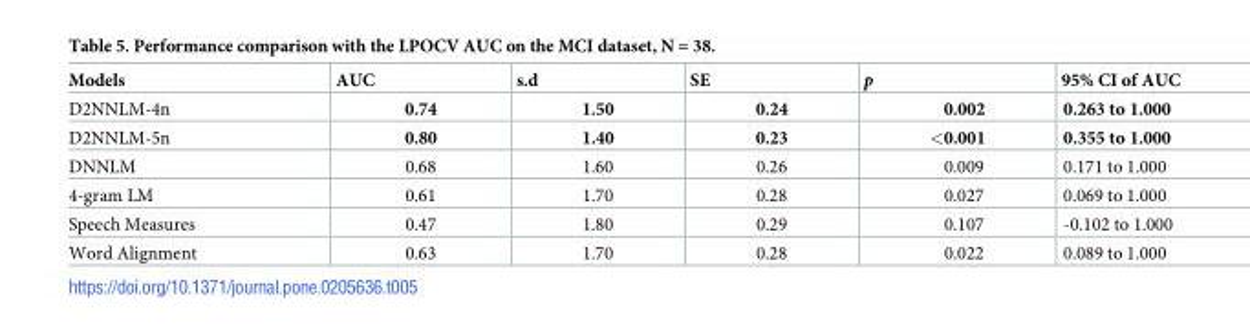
<table><thead><tr><td>Models</td><td>AUC</td><td>s.d</td><td>SE</td><td>p</td><td>95% CI of AUC</td></tr></thead><tbody><tr><td>D2NNLM-4n</td><td>0.74</td><td>1.50</td><td>0.24</td><td>0.002</td><td>0.263 to 1.000</td></tr><tr><td>D2NNLM-5n</td><td>0.80</td><td>1.40</td><td>0.23</td><td>&lt;0.001</td><td>0.355 to 1.000</td></tr><tr><td>DNNLM</td><td>0.68</td><td>1.60</td><td>0.26</td><td>0.009</td><td>0.171 to 1.000</td></tr><tr><td>4-gram LM</td><td>0.61</td><td>1.70</td><td>0.28</td><td>0.027</td><td>0.069 to 1.000</td></tr><tr><td>Speech Measures</td><td>0.47</td><td>1.80</td><td>0.29</td><td>0.107</td><td>-0.102 to 1.000</td></tr><tr><td>Word Alignment</td><td>0.63</td><td>1.70</td><td>0.28</td><td>0.022</td><td>0.089 to 1.000</td></tr></tbody></table>